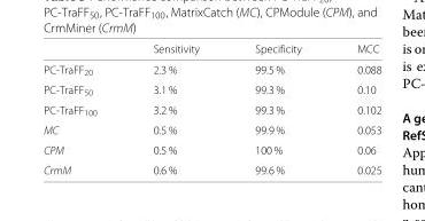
<table><thead><tr><td></td><td>Sensitivity</td><td>Specificity</td><td>MCC</td></tr></thead><tbody><tr><td>PC-TraFF<sub>20</sub></td><td>2.3 %</td><td>99.5 %</td><td>0.088</td></tr><tr><td>PC-TraFF<sub>50</sub></td><td>3.1 %</td><td>99.3 %</td><td>0.10</td></tr><tr><td>PC-TraFF<sub>100</sub></td><td>3.2 %</td><td>99.3 %</td><td>0.102</td></tr><tr><td>MC</td><td>0.5 %</td><td>99.9 %</td><td>0.053</td></tr><tr><td>CPM</td><td>0.5 %</td><td>100 %</td><td>0.06</td></tr><tr><td>CrmM</td><td>0.6 %</td><td>99.6 %</td><td>0.025</td></tr></tbody></table>